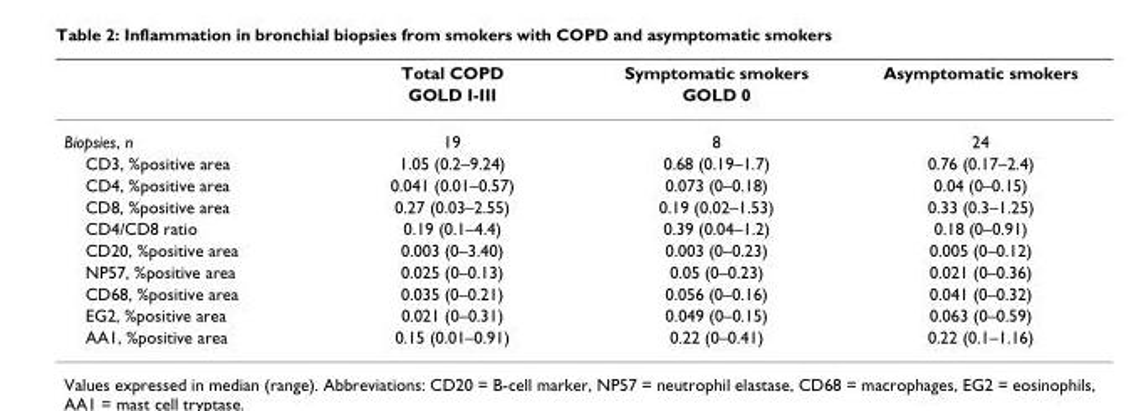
<table><thead><tr><td rowspan="2"></td><td rowspan="2">Total COPD GOLD I-III</td><td rowspan="2">Symptomatic smokers GOLD 0</td><td rowspan="2">Asymptomatic smokers</td></tr><tr></tr></thead><tbody><tr><td>Biopsies, n</td><td>19</td><td>8</td><td>24</td></tr><tr><td>CD3, %positive area</td><td>1.05 (0.2–9.24)</td><td>0.68 (0.19–1.7)</td><td>0.76 (0.17–2.4)</td></tr><tr><td>CD4, %positive area</td><td>0.041 (0.01–0.57)</td><td>0.073 (0–0.18)</td><td>0.04 (0–0.15)</td></tr><tr><td>CD8, %positive area</td><td>0.27 (0.03–2.55)</td><td>0.19 (0.02–1.53)</td><td>0.33 (0.3–1.25)</td></tr><tr><td>CD4/CD8 ratio</td><td>0.19 (0.1–4.4)</td><td>0.39 (0.04–1.2)</td><td>0.18 (0–0.91)</td></tr><tr><td>CD20, %positive area</td><td>0.003 (0–3.40)</td><td>0.003 (0–0.23)</td><td>0.005 (0–0.12)</td></tr><tr><td>NP57, %positive area</td><td>0.025 (0–0.13)</td><td>0.05 (0–0.23)</td><td>0.021 (0–0.36)</td></tr><tr><td>CD68, %positive area</td><td>0.035 (0–0.21)</td><td>0.056 (0–0.16)</td><td>0.041 (0–0.32)</td></tr><tr><td>EG2, %positive area</td><td>0.021 (0–0.31)</td><td>0.049 (0–0.15)</td><td>0.063 (0–0.59)</td></tr><tr><td>AA1, %positive area</td><td>0.15 (0.01–0.91)</td><td>0.22 (0–0.41)</td><td>0.22 (0.1–1.16)</td></tr></tbody></table>